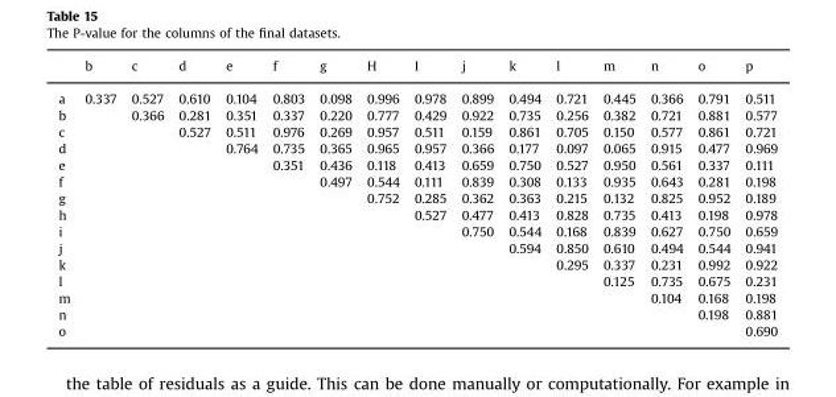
<table><thead><tr><td></td><td>b</td><td>c</td><td>d</td><td>e</td><td>f</td><td>g</td><td>H</td><td>I</td><td>j</td><td>k</td><td>l</td><td>m</td><td>n</td><td>o</td><td>p</td></tr></thead><tbody><tr><td>a</td><td>0.337</td><td>0.527</td><td>0.610</td><td>0.104</td><td>0.803</td><td>0.098</td><td>0.996</td><td>0.978</td><td>0.899</td><td>0.494</td><td>0.721</td><td>0.445</td><td>0.366</td><td>0.791</td><td>0.511</td></tr><tr><td>b</td><td></td><td>0.366</td><td>0.281</td><td>0.351</td><td>0.337</td><td>0.220</td><td>0.777</td><td>0.429</td><td>0.922</td><td>0.735</td><td>0.256</td><td>0.382</td><td>0.721</td><td>0.881</td><td>0.577</td></tr><tr><td>c</td><td></td><td></td><td>0.527</td><td>0.511</td><td>0.976</td><td>0.269</td><td>0.957</td><td>0.511</td><td>0.159</td><td>0.861</td><td>0.705</td><td>0.150</td><td>0.577</td><td>0.861</td><td>0.721</td></tr><tr><td>d</td><td></td><td></td><td></td><td>0.764</td><td>0.735</td><td>0.365</td><td>0.965</td><td>0.957</td><td>0.366</td><td>0.177</td><td>0.097</td><td>0.065</td><td>0.915</td><td>0.477</td><td>0.969</td></tr><tr><td>e</td><td></td><td></td><td></td><td></td><td>0.351</td><td>0.436</td><td>0.118</td><td>0.413</td><td>0.659</td><td>0.750</td><td>0.527</td><td>0.950</td><td>0.561</td><td>0.337</td><td>0.111</td></tr><tr><td>f</td><td></td><td></td><td></td><td></td><td></td><td>0.497</td><td>0.544</td><td>0.111</td><td>0.839</td><td>0.308</td><td>0.133</td><td>0.935</td><td>0.643</td><td>0.281</td><td>0.198</td></tr><tr><td>g</td><td></td><td></td><td></td><td></td><td></td><td></td><td>0.752</td><td>0.285</td><td>0.362</td><td>0.363</td><td>0.215</td><td>0.132</td><td>0.825</td><td>0.952</td><td>0.189</td></tr><tr><td>h</td><td></td><td></td><td></td><td></td><td></td><td></td><td></td><td>0.527</td><td>0.477</td><td>0.413</td><td>0.828</td><td>0.735</td><td>0.413</td><td>0.198</td><td>0.978</td></tr><tr><td>i</td><td></td><td></td><td></td><td></td><td></td><td></td><td></td><td></td><td>0.750</td><td>0.544</td><td>0.168</td><td>0.839</td><td>0.627</td><td>0.750</td><td>0.659</td></tr><tr><td>j</td><td></td><td></td><td></td><td></td><td></td><td></td><td></td><td></td><td></td><td>0.594</td><td>0.850</td><td>0.610</td><td>0.494</td><td>0.544</td><td>0.941</td></tr><tr><td>k</td><td></td><td></td><td></td><td></td><td></td><td></td><td></td><td></td><td></td><td></td><td>0.295</td><td>0.337</td><td>0.231</td><td>0.992</td><td>0.922</td></tr><tr><td>l</td><td></td><td></td><td></td><td></td><td></td><td></td><td></td><td></td><td></td><td></td><td></td><td>0.125</td><td>0.735</td><td>0.675</td><td>0.231</td></tr><tr><td>m</td><td></td><td></td><td></td><td></td><td></td><td></td><td></td><td></td><td></td><td></td><td></td><td></td><td>0.104</td><td>0.168</td><td>0.198</td></tr><tr><td>n</td><td></td><td></td><td></td><td></td><td></td><td></td><td></td><td></td><td></td><td></td><td></td><td></td><td></td><td>0.198</td><td>0.881</td></tr><tr><td>o</td><td></td><td></td><td></td><td></td><td></td><td></td><td></td><td></td><td></td><td></td><td></td><td></td><td></td><td></td><td>0.690</td></tr></tbody></table>